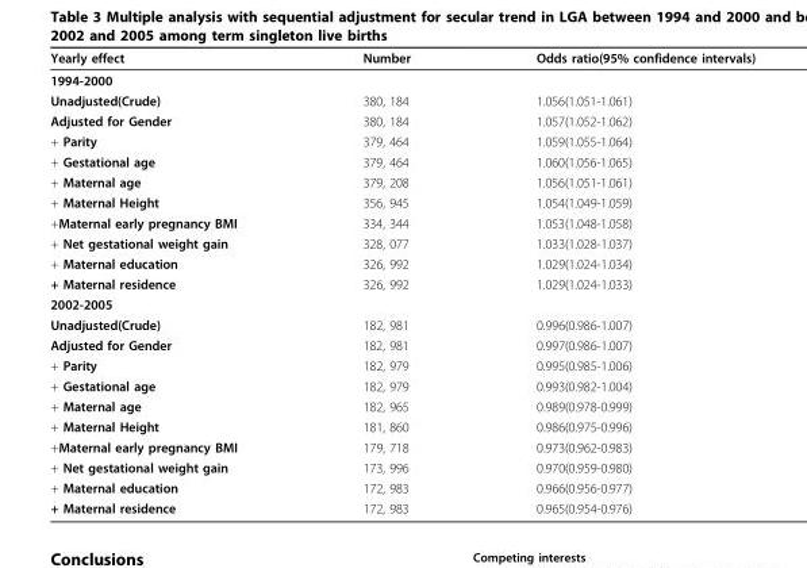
<table><thead><tr><td>Yearly effect</td><td>Number</td><td>Odds ratio(95% confidence intervals)</td></tr></thead><tbody><tr><td colspan="3">1994-2000</td></tr><tr><td>Unadjusted(Crude)</td><td>380, 184</td><td>1.056(1.051-1.061)</td></tr><tr><td>Adjusted for Gender</td><td>380, 184</td><td>1.057(1.052-1.062)</td></tr><tr><td>+ Parity</td><td>379, 464</td><td>1.059(1.055-1.064)</td></tr><tr><td>+ Gestational age</td><td>379, 464</td><td>1.060(1.056-1.065)</td></tr><tr><td>+ Maternal age</td><td>379, 208</td><td>1.056(1.051-1.061)</td></tr><tr><td>+ Maternal Height</td><td>356, 945</td><td>1.054(1.049-1.059)</td></tr><tr><td>+Maternal early pregnancy BMI</td><td>334, 344</td><td>1.053(1.048-1.058)</td></tr><tr><td>+ Net gestational weight gain</td><td>328, 077</td><td>1.033(1.028-1.037)</td></tr><tr><td>+ Maternal education</td><td>326, 992</td><td>1.029(1.024-1.034)</td></tr><tr><td>+ Maternal residence</td><td>326, 992</td><td>1.029(1.024-1.033)</td></tr><tr><td colspan="3">2002-2005</td></tr><tr><td>Unadjusted(Crude)</td><td>182, 981</td><td>0.996(0.986-1.007)</td></tr><tr><td>Adjusted for Gender</td><td>182, 981</td><td>0.997(0.986-1.007)</td></tr><tr><td>+ Parity</td><td>182, 979</td><td>0.995(0.985-1.006)</td></tr><tr><td>+ Gestational age</td><td>182, 979</td><td>0.993(0.982-1.004)</td></tr><tr><td>+ Maternal age</td><td>182, 965</td><td>0.989(0.978-0.999)</td></tr><tr><td>+ Maternal Height</td><td>181, 860</td><td>0.986(0.975-0.996)</td></tr><tr><td>+Maternal early pregnancy BMI</td><td>179, 718</td><td>0.973(0.962-0.983)</td></tr><tr><td>+ Net gestational weight gain</td><td>173, 996</td><td>0.970(0.959-0.980)</td></tr><tr><td>+ Maternal education</td><td>172, 983</td><td>0.966(0.956-0.977)</td></tr><tr><td>+ Maternal residence</td><td>172, 983</td><td>0.965(0.954-0.976)</td></tr></tbody></table>